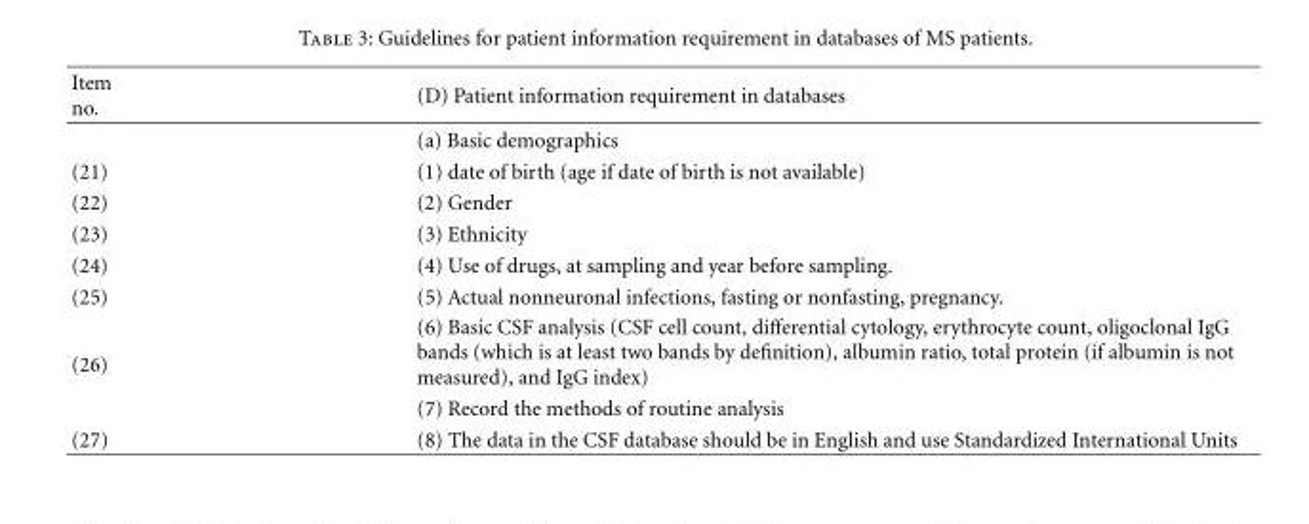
<table><thead><tr><td>Item no.</td><td>(D) Patient information requirement in databases</td></tr></thead><tbody><tr><td></td><td>(a) Basic demographics</td></tr><tr><td>(21)</td><td>(1) date of birth (age if date of birth is not available)</td></tr><tr><td>(22)</td><td>(2) Gender</td></tr><tr><td>(23)</td><td>(3) Ethnicity</td></tr><tr><td>(24)</td><td>(4) Use of drugs, at sampling and year before sampling.</td></tr><tr><td>(25)</td><td>(5) Actual nonneuronal infections, fasting or nonfasting, pregnancy.</td></tr><tr><td rowspan="2">(26)</td><td>(6) Basic CSF analysis (CSF cell count, differential cytology, erythrocyte count, oligoclonal IgG bands (which is at least two bands by definition), albumin ratio, total protein (if albumin is not measured), and IgG index)</td></tr><tr><td>(7) Record the methods of routine analysis</td></tr><tr><td>(27)</td><td>(8) The data in the CSF database should be in English and use Standardized International Units</td></tr></tbody></table>